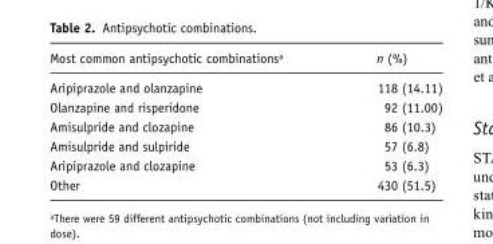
<table><thead><tr><td>Most common antipsychotic combinations<sup>a</sup></td><td>n (%)</td></tr></thead><tbody><tr><td>Aripiprazole and olanzapine</td><td>118 (14.11)</td></tr><tr><td>Olanzapine and risperidone</td><td>92 (11.00)</td></tr><tr><td>Amisulpride and clozapine</td><td>86 (10.3)</td></tr><tr><td>Amisulpride and sulpiride</td><td>57 (6.8)</td></tr><tr><td>Aripiprazole and clozapine</td><td>53 (6.3)</td></tr><tr><td>Other</td><td>430 (51.5)</td></tr></tbody></table>